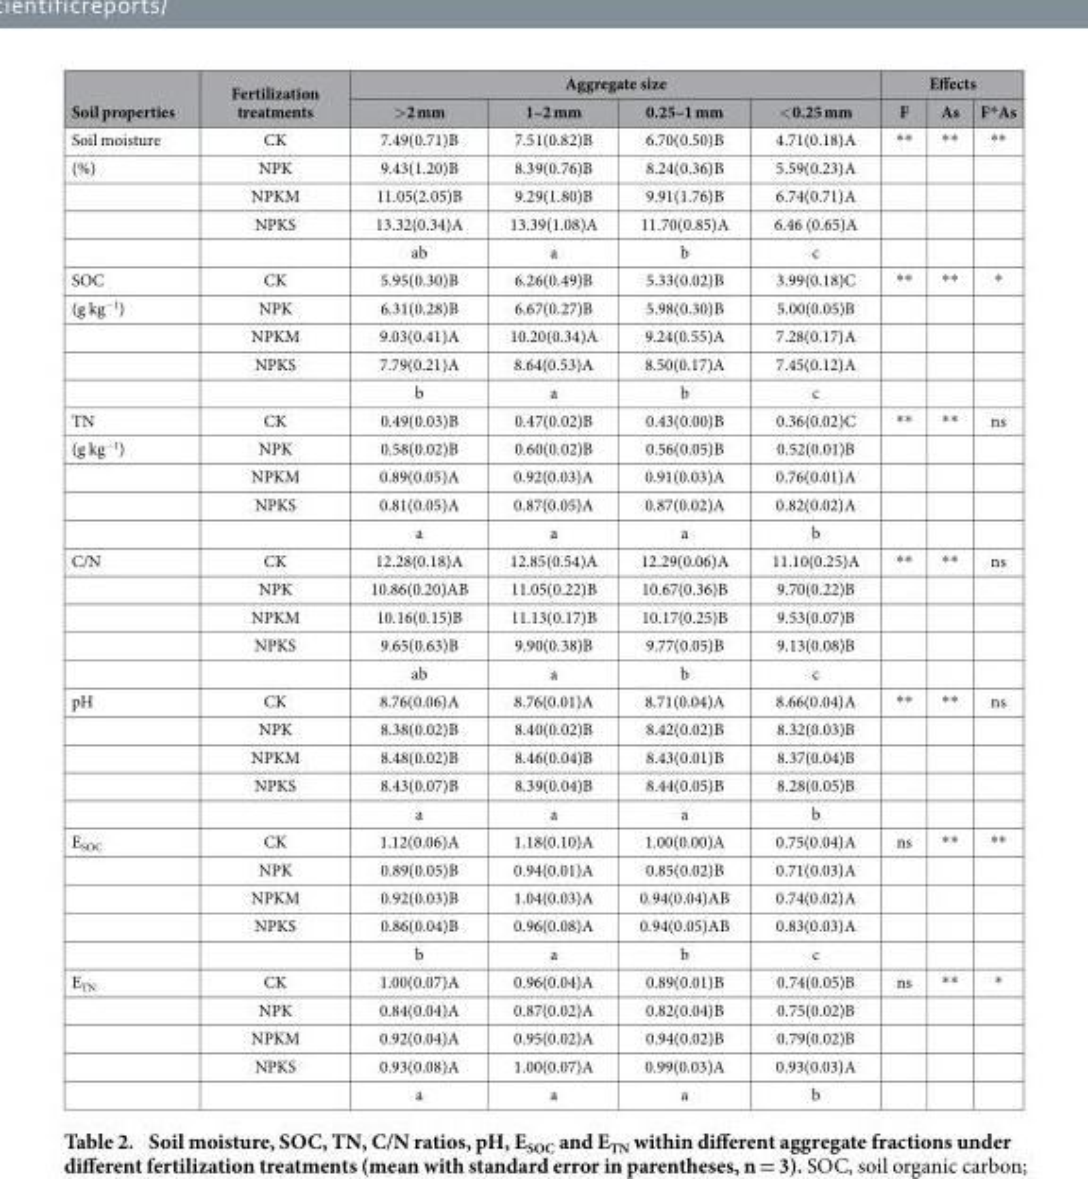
<table><thead><tr><td rowspan="2">Soil properties</td><td rowspan="2">Fertilization treatments</td><td colspan="4">Aggregate size</td><td colspan="3">Effects</td></tr><tr><td>&gt;2 mm</td><td>1–2 mm</td><td>0.25–1 mm</td><td>&lt;0.25 mm</td><td>F</td><td>As</td><td>F*As</td></tr></thead><tbody><tr><td>Soil moisture</td><td>CK</td><td>7.49(0.71)B</td><td>7.51(0.82)B</td><td>6.70(0.50)B</td><td>4.71(0.18)A</td><td>**</td><td>**</td><td>**</td></tr><tr><td rowspan="4">(%)</td><td>NPK</td><td>9.43(1.20)B</td><td>8.39(0.76)B</td><td>8.24(0.36)B</td><td>5.59(0.23)A</td><td></td><td></td><td></td></tr><tr><td>NPKM</td><td>11.05(2.05)B</td><td>9.29(1.80)B</td><td>9.91(1.76)B</td><td>6.74(0.71)A</td><td></td><td></td><td></td></tr><tr><td>NPKS</td><td>13.32(0.34)A</td><td>13.39(1.08)A</td><td>11.70(0.85)A</td><td>6.46 (0.65)A</td><td></td><td></td><td></td></tr><tr><td></td><td>ab</td><td>a</td><td>b</td><td>c</td><td></td><td></td><td></td></tr><tr><td>SOC</td><td>CK</td><td>5.95(0.30)B</td><td>6.26(0.49)B</td><td>5.33(0.02)B</td><td>3.99(0.18)C</td><td>**</td><td>**</td><td>*</td></tr><tr><td rowspan="4">(g kg<sup>−1</sup>)</td><td>NPK</td><td>6.31(0.28)B</td><td>6.67(0.27)B</td><td>5.98(0.30)B</td><td>5.00(0.05)B</td><td></td><td></td><td></td></tr><tr><td>NPKM</td><td>9.03(0.41)A</td><td>10.20(0.34)A</td><td>9.24(0.55)A</td><td>7.28(0.17)A</td><td></td><td></td><td></td></tr><tr><td>NPKS</td><td>7.79(0.21)A</td><td>8.64(0.53)A</td><td>8.50(0.17)A</td><td>7.45(0.12)A</td><td></td><td></td><td></td></tr><tr><td></td><td>b</td><td>a</td><td>b</td><td>c</td><td></td><td></td><td></td></tr><tr><td>TN</td><td>CK</td><td>0.49(0.03)B</td><td>0.47(0.02)B</td><td>0.43(0.00)B</td><td>0.36(0.02)C</td><td>**</td><td>**</td><td>ns</td></tr><tr><td rowspan="4">(g kg<sup>−1</sup>)</td><td>NPK</td><td>0.58(0.02)B</td><td>0.60(0.02)B</td><td>0.56(0.05)B</td><td>0.52(0.01)B</td><td></td><td></td><td></td></tr><tr><td>NPKM</td><td>0.89(0.05)A</td><td>0.92(0.03)A</td><td>0.91(0.03)A</td><td>0.76(0.01)A</td><td></td><td></td><td></td></tr><tr><td>NPKS</td><td>0.81(0.05)A</td><td>0.87(0.05)A</td><td>0.87(0.02)A</td><td>0.82(0.02)A</td><td></td><td></td><td></td></tr><tr><td></td><td>a</td><td>a</td><td>a</td><td>b</td><td></td><td></td><td></td></tr><tr><td rowspan="5">C/N</td><td>CK</td><td>12.28(0.18)A</td><td>12.85(0.54)A</td><td>12.29(0.06)A</td><td>11.10(0.25)A</td><td>**</td><td>**</td><td>ns</td></tr><tr><td>NPK</td><td>10.86(0.20)AB</td><td>11.05(0.22)B</td><td>10.67(0.36)B</td><td>9.70(0.22)B</td><td></td><td></td><td></td></tr><tr><td>NPKM</td><td>10.16(0.15)B</td><td>11.13(0.17)B</td><td>10.17(0.25)B</td><td>9.53(0.07)B</td><td></td><td></td><td></td></tr><tr><td>NPKS</td><td>9.65(0.63)B</td><td>9.90(0.38)B</td><td>9.77(0.05)B</td><td>9.13(0.08)B</td><td></td><td></td><td></td></tr><tr><td></td><td>ab</td><td>a</td><td>b</td><td>c</td><td></td><td></td><td></td></tr><tr><td rowspan="5">pH</td><td>CK</td><td>8.76(0.06)A</td><td>8.76(0.01)A</td><td>8.71(0.04)A</td><td>8.66(0.04)A</td><td>**</td><td>**</td><td>ns</td></tr><tr><td>NPK</td><td>8.38(0.02)B</td><td>8.40(0.02)B</td><td>8.42(0.02)B</td><td>8.32(0.03)B</td><td></td><td></td><td></td></tr><tr><td>NPKM</td><td>8.48(0.02)B</td><td>8.46(0.04)B</td><td>8.43(0.01)B</td><td>8.37(0.04)B</td><td></td><td></td><td></td></tr><tr><td>NPKS</td><td>8.43(0.07)B</td><td>8.39(0.04)B</td><td>8.44(0.05)B</td><td>8.28(0.05)B</td><td></td><td></td><td></td></tr><tr><td></td><td>a</td><td>a</td><td>a</td><td>b</td><td></td><td></td><td></td></tr><tr><td rowspan="5">E<sub>SOC</sub></td><td>CK</td><td>1.12(0.06)A</td><td>1.18(0.10)A</td><td>1.00(0.00)A</td><td>0.75(0.04)A</td><td>ns</td><td>**</td><td>**</td></tr><tr><td>NPK</td><td>0.89(0.05)B</td><td>0.94(0.01)A</td><td>0.85(0.02)B</td><td>0.71(0.03)A</td><td></td><td></td><td></td></tr><tr><td>NPKM</td><td>0.92(0.03)B</td><td>1.04(0.03)A</td><td>0.94(0.04)AB</td><td>0.74(0.02)A</td><td></td><td></td><td></td></tr><tr><td>NPKS</td><td>0.86(0.04)B</td><td>0.96(0.08)A</td><td>0.94(0.05)AB</td><td>0.83(0.03)A</td><td></td><td></td><td></td></tr><tr><td></td><td>b</td><td>a</td><td>b</td><td>c</td><td></td><td></td><td></td></tr><tr><td rowspan="5">E<sub>TN</sub></td><td>CK</td><td>1.00(0.07)A</td><td>0.96(0.04)A</td><td>0.89(0.01)B</td><td>0.74(0.05)B</td><td>ns</td><td>**</td><td>*</td></tr><tr><td>NPK</td><td>0.84(0.04)A</td><td>0.87(0.02)A</td><td>0.82(0.04)B</td><td>0.75(0.02)B</td><td></td><td></td><td></td></tr><tr><td>NPKM</td><td>0.92(0.04)A</td><td>0.95(0.02)A</td><td>0.94(0.02)B</td><td>0.79(0.02)B</td><td></td><td></td><td></td></tr><tr><td>NPKS</td><td>0.93(0.08)A</td><td>1.00(0.07)A</td><td>0.99(0.03)A</td><td>0.93(0.03)A</td><td></td><td></td><td></td></tr><tr><td></td><td>a</td><td>a</td><td>a</td><td>b</td><td></td><td></td><td></td></tr></tbody></table>